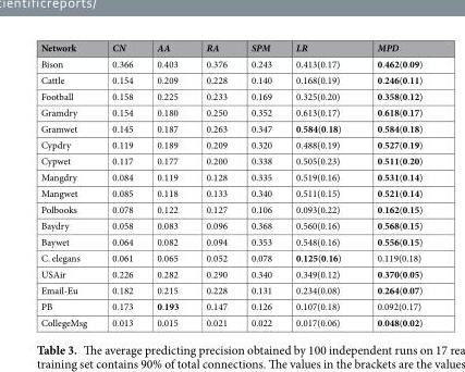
<table><thead><tr><td>Network</td><td>CN</td><td>AA</td><td>RA</td><td>SPM</td><td>LR</td><td>MPD</td></tr></thead><tbody><tr><td>Bison</td><td>0.366</td><td>0.403</td><td>0.376</td><td>0.243</td><td>0.413(0.17)</td><td>0.462(0.09)</td></tr><tr><td>Cattle</td><td>0.154</td><td>0.209</td><td>0.228</td><td>0.140</td><td>0.168(0.19)</td><td>0.246(0.11)</td></tr><tr><td>Football</td><td>0.158</td><td>0.225</td><td>0.233</td><td>0.169</td><td>0.325(0.20)</td><td>0.358(0.12)</td></tr><tr><td>Gramdry</td><td>0.154</td><td>0.180</td><td>0.250</td><td>0.352</td><td>0.613(0.17)</td><td>0.618(0.17)</td></tr><tr><td>Gramwet</td><td>0.145</td><td>0.187</td><td>0.263</td><td>0.347</td><td>0.584(0.18)</td><td>0.584(0.18)</td></tr><tr><td>Cypdry</td><td>0.119</td><td>0.189</td><td>0.209</td><td>0.320</td><td>0.488(0.19)</td><td>0.527(0.19)</td></tr><tr><td>Cypwet</td><td>0.117</td><td>0.177</td><td>0.200</td><td>0.338</td><td>0.505(0.23)</td><td>0.511(0.20)</td></tr><tr><td>Mangdry</td><td>0.084</td><td>0.119</td><td>0.128</td><td>0.335</td><td>0.519(0.16)</td><td>0.531(0.14)</td></tr><tr><td>Mangwet</td><td>0.085</td><td>0.118</td><td>0.133</td><td>0.340</td><td>0.511(0.15)</td><td>0.521(0.14)</td></tr><tr><td>Polbooks</td><td>0.078</td><td>0.122</td><td>0.127</td><td>0.106</td><td>0.093(0.22)</td><td>0.162(0.15)</td></tr><tr><td>Baydry</td><td>0.058</td><td>0.083</td><td>0.096</td><td>0.368</td><td>0.560(0.16)</td><td>0.568(0.15)</td></tr><tr><td>Baywet</td><td>0.064</td><td>0.082</td><td>0.094</td><td>0.353</td><td>0.548(0.16)</td><td>0.556(0.15)</td></tr><tr><td>C. elegans</td><td>0.061</td><td>0.065</td><td>0.052</td><td>0.078</td><td>0.125(0.16)</td><td>0.119(0.18)</td></tr><tr><td>USAir</td><td>0.226</td><td>0.282</td><td>0.290</td><td>0.340</td><td>0.349(0.12)</td><td>0.370(0.05)</td></tr><tr><td>Email-Eu</td><td>0.182</td><td>0.215</td><td>0.228</td><td>0.131</td><td>0.234(0.08)</td><td>0.264(0.07)</td></tr><tr><td>PB</td><td>0.173</td><td>0.193</td><td>0.147</td><td>0.126</td><td>0.107(0.18)</td><td>0.092(0.17)</td></tr><tr><td>CollegeMsg</td><td>0.013</td><td>0.015</td><td>0.021</td><td>0.022</td><td>0.017(0.06)</td><td>0.048(0.02)</td></tr></tbody></table>